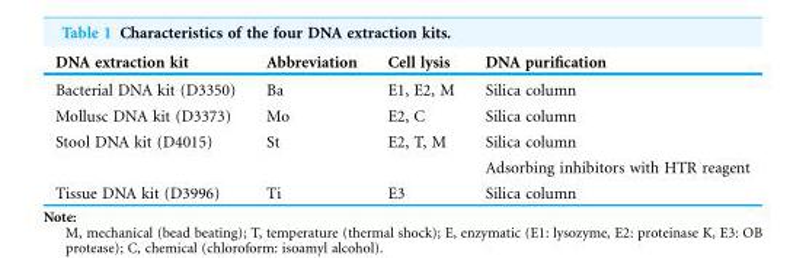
<table><thead><tr><td>DNA extraction kit</td><td>Abbreviation</td><td>Cell lysis</td><td>DNA purification</td></tr></thead><tbody><tr><td>Bacterial DNA kit (D3350)</td><td>Ba</td><td>E1, E2, M</td><td>Silica column</td></tr><tr><td>Mollusc DNA kit (D3373)</td><td>Mo</td><td>E2, C</td><td>Silica column</td></tr><tr><td rowspan="2">Stool DNA kit (D4015)</td><td rowspan="2">St</td><td rowspan="2">E2, T, M</td><td>Silica column</td></tr><tr><td>Adsorbing inhibitors with HTR reagent</td></tr><tr><td>Tissue DNA kit (D3996)</td><td>Ti</td><td>E3</td><td>Silica column</td></tr></tbody></table>